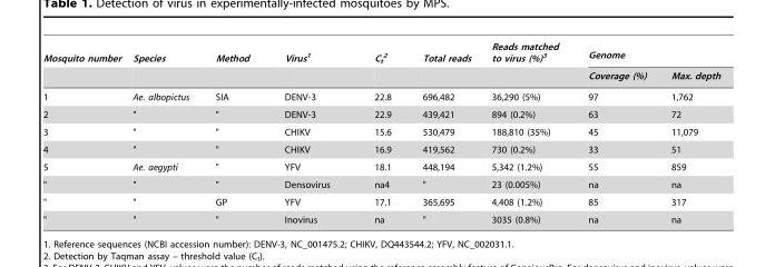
<table><thead><tr><td rowspan="2">Mosquito number</td><td rowspan="2">Species</td><td rowspan="2">Method</td><td rowspan="2">Virus<sup>1</sup></td><td rowspan="2">C<sub>t</sub> <sup>2</sup></td><td rowspan="2">Total reads</td><td rowspan="2">Reads matched to virus (%)<sup>3</sup></td><td colspan="2">Genome</td></tr><tr><td>Coverage (%)</td><td>Max. depth</td></tr></thead><tbody><tr><td>1</td><td>Ae. albopictus</td><td>SIA</td><td>DENV-3</td><td>22.8</td><td>696,482</td><td>36,290 (5%)</td><td>97</td><td>1,762</td></tr><tr><td>2</td><td>&quot;</td><td>&quot;</td><td>DENV-3</td><td>22.9</td><td>439,421</td><td>894 (0.2%)</td><td>63</td><td>72</td></tr><tr><td>3</td><td>&quot;</td><td>&quot;</td><td>CHIKV</td><td>15.6</td><td>530,479</td><td>188,810 (35%)</td><td>45</td><td>11,079</td></tr><tr><td>4</td><td>&quot;</td><td>&quot;</td><td>CHIKV</td><td>16.9</td><td>419,562</td><td>730 (0.2%)</td><td>33</td><td>51</td></tr><tr><td>5</td><td>Ae. aegypti</td><td>&quot;</td><td>YFV</td><td>18.1</td><td>448,194</td><td>5,342 (1.2%)</td><td>55</td><td>859</td></tr><tr><td>&quot;</td><td>&quot;</td><td>&quot;</td><td>Densovirus</td><td>na4</td><td>&quot;</td><td>23 (0.005%)</td><td>na</td><td>na</td></tr><tr><td>&quot;</td><td>&quot;</td><td>GP</td><td>YFV</td><td>17.1</td><td>365,695</td><td>4,408 (1.2%)</td><td>85</td><td>317</td></tr><tr><td>&quot;</td><td>&quot;</td><td>&quot;</td><td>Inovirus</td><td>na</td><td>&quot;</td><td>3035 (0.8%)</td><td>na</td><td>na</td></tr></tbody></table>